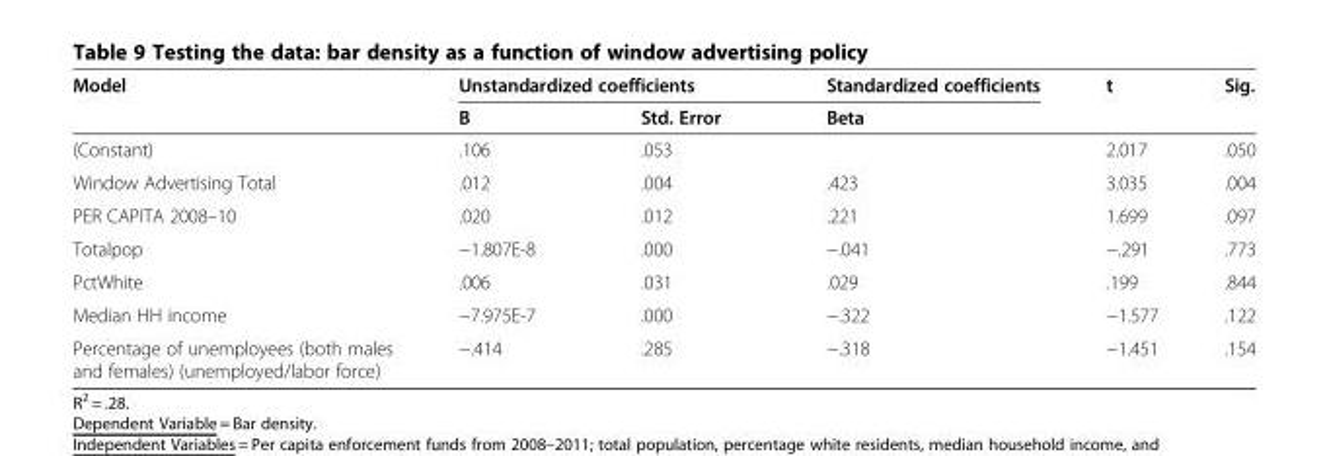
<table><thead><tr><td rowspan="2">Model</td><td colspan="2">Unstandardized coefficients</td><td rowspan="2">Standardized coefficients Beta</td><td rowspan="2">t</td><td rowspan="2">Sig.</td></tr><tr><td>B</td><td>Std. Error</td></tr></thead><tbody><tr><td>(Constant)</td><td>.106</td><td>.053</td><td></td><td>2.017</td><td>.050</td></tr><tr><td>Window Advertising Total</td><td>.012</td><td>.004</td><td>.423</td><td>3.035</td><td>.004</td></tr><tr><td>PER CAPITA 2008–10</td><td>.020</td><td>.012</td><td>.221</td><td>1.699</td><td>.097</td></tr><tr><td>Totalpop</td><td>−1.807E-8</td><td>.000</td><td>−.041</td><td>−.291</td><td>.773</td></tr><tr><td>PctWhite</td><td>.006</td><td>.031</td><td>.029</td><td>.199</td><td>.844</td></tr><tr><td>Median HH income</td><td>−7.975E-7</td><td>.000</td><td>−.322</td><td>−1.577</td><td>.122</td></tr><tr><td>Percentage of unemployees (both males and females) (unemployed/labor force)</td><td>−.414</td><td>.285</td><td>−.318</td><td>−1.451</td><td>.154</td></tr></tbody></table>